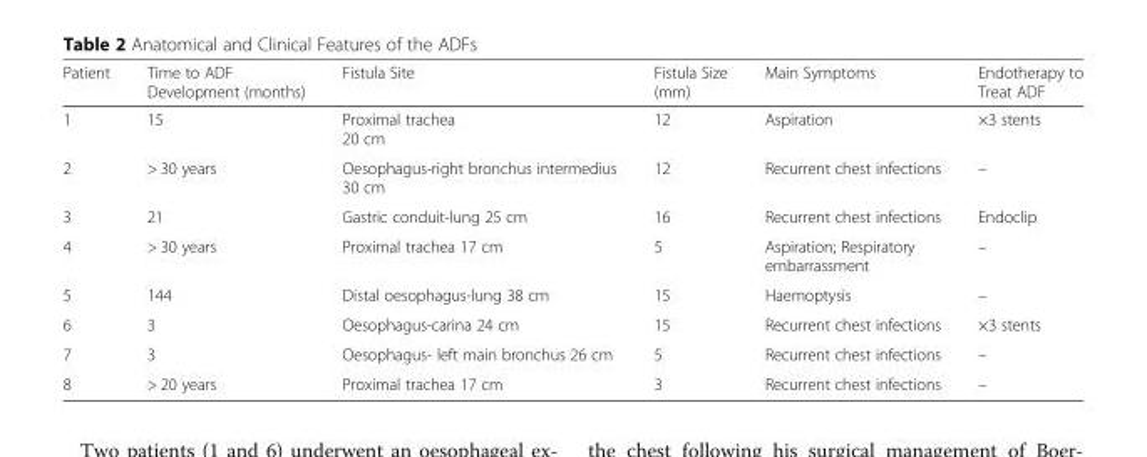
<table><thead><tr><td>Patient</td><td>Time to ADF Development (months)</td><td>Fistula Site</td><td>Fistula Size (mm)</td><td>Main Symptoms</td><td>Endotherapy to Treat ADF</td></tr></thead><tbody><tr><td>1</td><td>15</td><td>Proximal trachea 20 cm</td><td>12</td><td>Aspiration</td><td>×3 stents</td></tr><tr><td>2</td><td>&gt; 30 years</td><td>Oesophagus-right bronchus intermedius 30 cm</td><td>12</td><td>Recurrent chest infections</td><td>–</td></tr><tr><td>3</td><td>21</td><td>Gastric conduit-lung 25 cm</td><td>16</td><td>Recurrent chest infections</td><td>Endoclip</td></tr><tr><td>4</td><td>&gt; 30 years</td><td>Proximal trachea 17 cm</td><td>5</td><td>Aspiration; Respiratory embarrassment</td><td>–</td></tr><tr><td>5</td><td>144</td><td>Distal oesophagus-lung 38 cm</td><td>15</td><td>Haemoptysis</td><td>–</td></tr><tr><td>6</td><td>3</td><td>Oesophagus-carina 24 cm</td><td>15</td><td>Recurrent chest infections</td><td>×3 stents</td></tr><tr><td>7</td><td>3</td><td>Oesophagus- left main bronchus 26 cm</td><td>5</td><td>Recurrent chest infections</td><td>–</td></tr><tr><td>8</td><td>&gt; 20 years</td><td>Proximal trachea 17 cm</td><td>3</td><td>Recurrent chest infections</td><td>–</td></tr></tbody></table>